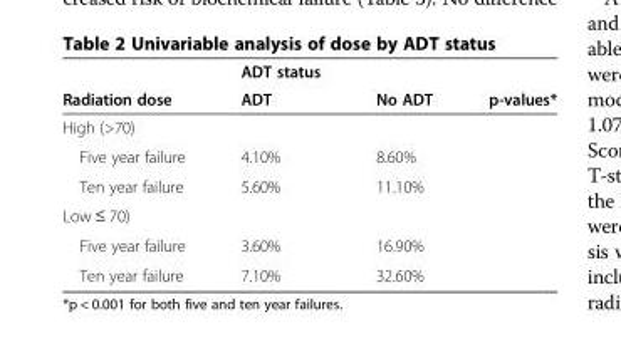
<table><thead><tr><td rowspan="2">Radiation dose</td><td rowspan="2">ADT status ADT</td><td rowspan="2">No ADT</td><td rowspan="2">p-values*</td></tr><tr></tr></thead><tbody><tr><td colspan="4">High (&gt;70)</td></tr><tr><td>Five year failure</td><td>4.10%</td><td>8.60%</td><td></td></tr><tr><td>Ten year failure</td><td>5.60%</td><td>11.10%</td><td></td></tr><tr><td colspan="4">Low ≤ 70)</td></tr><tr><td>Five year failure</td><td>3.60%</td><td>16.90%</td><td></td></tr><tr><td>Ten year failure</td><td>7.10%</td><td>32.60%</td><td></td></tr></tbody></table>